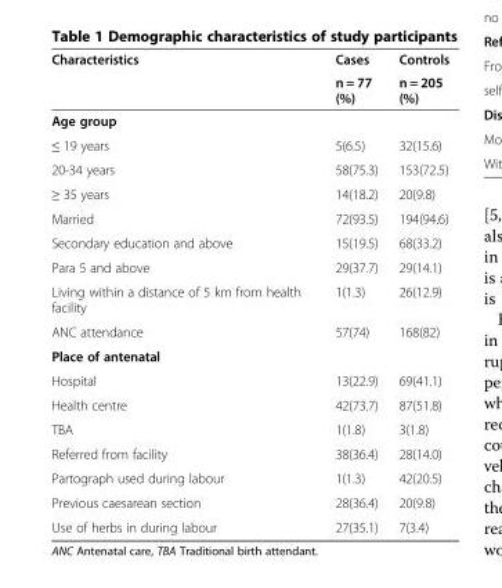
<table><thead><tr><td rowspan="2">Characteristics</td><td rowspan="2">Cases n = 77 (%)</td><td rowspan="2">Controls n = 205 (%)</td></tr><tr></tr></thead><tbody><tr><td colspan="3">Age group</td></tr><tr><td>≤ 19 years</td><td>5(6.5)</td><td>32(15.6)</td></tr><tr><td>20-34 years</td><td>58(75.3)</td><td>153(72.5)</td></tr><tr><td>≥ 35 years</td><td>14(18.2)</td><td>20(9.8)</td></tr><tr><td>Married</td><td>72(93.5)</td><td>194(94.6)</td></tr><tr><td>Secondary education and above</td><td>15(19.5)</td><td>68(33.2)</td></tr><tr><td>Para 5 and above</td><td>29(37.7)</td><td>29(14.1)</td></tr><tr><td>Living within a distance of 5 km from health facility</td><td>1(1.3)</td><td>26(12.9)</td></tr><tr><td>ANC attendance</td><td>57(74)</td><td>168(82)</td></tr><tr><td colspan="3">Place of antenatal</td></tr><tr><td>Hospital</td><td>13(22.9)</td><td>69(41.1)</td></tr><tr><td>Health centre</td><td>42(73.7)</td><td>87(51.8)</td></tr><tr><td>TBA</td><td>1(1.8)</td><td>3(1.8)</td></tr><tr><td>Referred from facility</td><td>38(36.4)</td><td>28(14.0)</td></tr><tr><td>Partograph used during labour</td><td>1(1.3)</td><td>42(20.5)</td></tr><tr><td>Previous caesarean section</td><td>28(36.4)</td><td>20(9.8)</td></tr><tr><td>Use of herbs in during labour</td><td>27(35.1)</td><td>7(3.4)</td></tr></tbody></table>